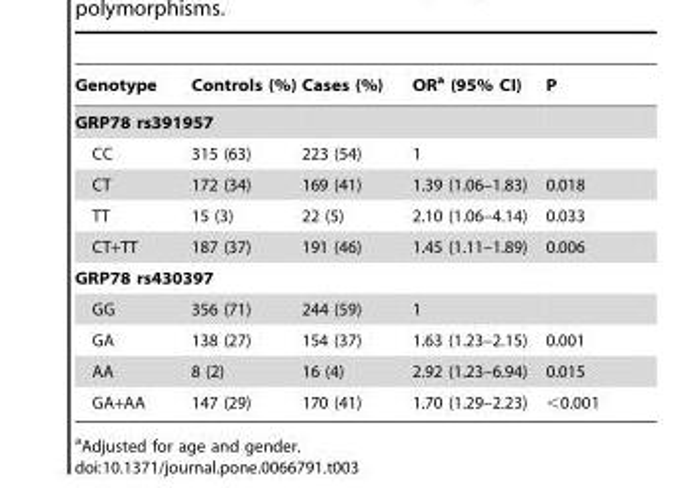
<table><thead><tr><td>Genotype</td><td>Controls (%)</td><td>Cases (%)</td><td>OR<sup>a</sup> (95% CI)</td><td>P</td></tr></thead><tbody><tr><td colspan="5">GRP78 rs391957</td></tr><tr><td>CC</td><td>315 (63)</td><td>223 (54)</td><td>1</td><td></td></tr><tr><td>CT</td><td>172 (34)</td><td>169 (41)</td><td>1.39 (1.06–1.83)</td><td>0.018</td></tr><tr><td>TT</td><td>15 (3)</td><td>22 (5)</td><td>2.10 (1.06–4.14)</td><td>0.033</td></tr><tr><td>CT+TT</td><td>187 (37)</td><td>191 (46)</td><td>1.45 (1.11–1.89)</td><td>0.006</td></tr><tr><td colspan="5">GRP78 rs430397</td></tr><tr><td>GG</td><td>356 (71)</td><td>244 (59)</td><td>1</td><td></td></tr><tr><td>GA</td><td>138 (27)</td><td>154 (37)</td><td>1.63 (1.23–2.15)</td><td>0.001</td></tr><tr><td>AA</td><td>8 (2)</td><td>16 (4)</td><td>2.92 (1.23–6.94)</td><td>0.015</td></tr><tr><td>GA+AA</td><td>147 (29)</td><td>170 (41)</td><td>1.70 (1.29–2.23)</td><td>&lt;0.001</td></tr></tbody></table>